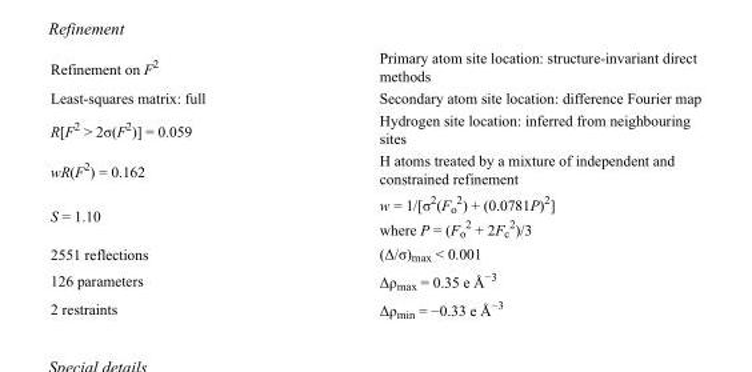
<table><tbody><tr><td>Refinement on F<sup>2</sup></td><td>Primary atom site location: structure-invariant direct methods</td></tr><tr><td>Least-squares matrix: full</td><td>Secondary atom site location: difference Fourier map</td></tr><tr><td>R[F<sup>2</sup> &gt; 2σ(F<sup>2</sup>)] = 0.059</td><td>Hydrogen site location: inferred from neighbouring sites</td></tr><tr><td>wR(F<sup>2</sup>) = 0.162</td><td>H atoms treated by a mixture of independent and constrained refinement</td></tr><tr><td>S = 1.10</td><td>w = 1/[σ<sup>2</sup>(F<sub>o</sub> <sup>2</sup>) + (0.0781P)<sup>2</sup>] where P = (F<sub>o</sub> <sup>2</sup> + 2F<sub>c</sub> <sup>2</sup>)/3</td></tr><tr><td>2551 reflections</td><td>(Δ/σ)<sub>max</sub> &lt; 0.001</td></tr><tr><td>126 parameters</td><td>Δρ<sub>max</sub> = 0.35 e Å<sup>−3</sup></td></tr><tr><td>2 restraints</td><td>Δρ<sub>min</sub> = −0.33 e Å<sup>−3</sup></td></tr></tbody></table>